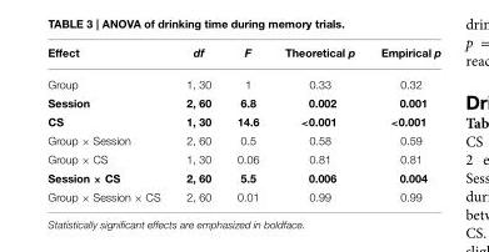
<table><thead><tr><td>Effect</td><td>df</td><td>F</td><td>Theoretical p</td><td>Empirical p</td></tr></thead><tbody><tr><td>Group</td><td>1, 30</td><td>1</td><td>0.33</td><td>0.32</td></tr><tr><td>Session</td><td>2, 60</td><td>6.8</td><td>0.002</td><td>0.001</td></tr><tr><td>CS</td><td>1, 30</td><td>14.6</td><td>&lt;0.001</td><td>&lt;0.001</td></tr><tr><td>Group × Session</td><td>2, 60</td><td>0.5</td><td>0.58</td><td>0.59</td></tr><tr><td>Group × CS</td><td>1, 30</td><td>0.06</td><td>0.81</td><td>0.81</td></tr><tr><td>Session × CS</td><td>2, 60</td><td>5.5</td><td>0.006</td><td>0.004</td></tr><tr><td>Group × Session × CS</td><td>2, 60</td><td>0.01</td><td>0.99</td><td>0.99</td></tr></tbody></table>